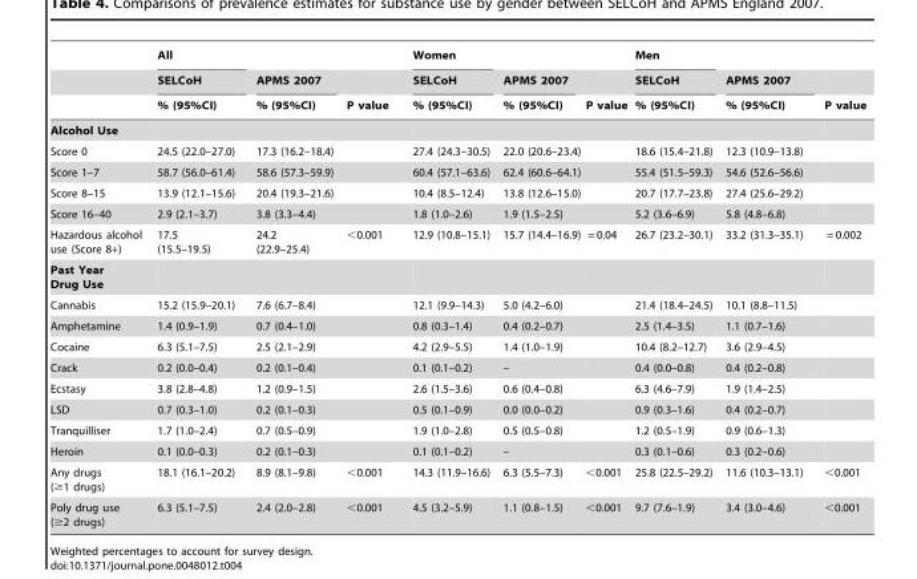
<table><thead><tr><td rowspan="3"></td><td rowspan="3">All SELCoH % (95%CI)</td><td rowspan="3">APMS 2007 % (95%CI)</td><td rowspan="3">P value</td><td rowspan="3">Women SELCoH % (95%CI)</td><td rowspan="3">APMS 2007 % (95%CI)</td><td rowspan="3">P value</td><td rowspan="3">Men SELCoH % (95%CI)</td><td rowspan="3">APMS 2007 % (95%CI)</td><td rowspan="3">P value</td></tr><tr></tr><tr></tr></thead><tbody><tr><td colspan="10">Alcohol Use</td></tr><tr><td>Score 0</td><td>24.5 (22.0–27.0)</td><td>17.3 (16.2–18.4)</td><td></td><td>27.4 (24.3–30.5)</td><td>22.0 (20.6–23.4)</td><td></td><td>18.6 (15.4–21.8)</td><td>12.3 (10.9–13.8)</td><td></td></tr><tr><td>Score 1–7</td><td>58.7 (56.0–61.4)</td><td>58.6 (57.3–59.9)</td><td></td><td>60.4 (57.1–63.6)</td><td>62.4 (60.6–64.1)</td><td></td><td>55.4 (51.5–59.3)</td><td>54.6 (52.6–56.6)</td><td></td></tr><tr><td>Score 8–15</td><td>13.9 (12.1–15.6)</td><td>20.4 (19.3–21.6)</td><td></td><td>10.4 (8.5–12.4)</td><td>13.8 (12.6–15.0)</td><td></td><td>20.7 (17.7–23.8)</td><td>27.4 (25.6–29.2)</td><td></td></tr><tr><td>Score 16–40</td><td>2.9 (2.1–3.7)</td><td>3.8 (3.3–4.4)</td><td></td><td>1.8 (1.0–2.6)</td><td>1.9 (1.5–2.5)</td><td></td><td>5.2 (3.6–6.9)</td><td>5.8 (4.8–6.8)</td><td></td></tr><tr><td>Hazardous alcohol use (Score 8+)</td><td>17.5 (15.5–19.5)</td><td>24.2 (22.9–25.4)</td><td>&lt;0.001</td><td>12.9 (10.8–15.1)</td><td>15.7 (14.4–16.9)</td><td>= 0.04</td><td>26.7 (23.2–30.1)</td><td>33.2 (31.3–35.1)</td><td>= 0.002</td></tr><tr><td colspan="10">Past Year Drug Use</td></tr><tr><td>Cannabis</td><td>15.2 (15.9–20.1)</td><td>7.6 (6.7–8.4)</td><td></td><td>12.1 (9.9–14.3)</td><td>5.0 (4.2–6.0)</td><td></td><td>21.4 (18.4–24.5)</td><td>10.1 (8.8–11.5)</td><td></td></tr><tr><td>Amphetamine</td><td>1.4 (0.9–1.9)</td><td>0.7 (0.4–1.0)</td><td></td><td>0.8 (0.3–1.4)</td><td>0.4 (0.2–0.7)</td><td></td><td>2.5 (1.4–3.5)</td><td>1.1 (0.7–1.6)</td><td></td></tr><tr><td>Cocaine</td><td>6.3 (5.1–7.5)</td><td>2.5 (2.1–2.9)</td><td></td><td>4.2 (2.9–5.5)</td><td>1.4 (1.0–1.9)</td><td></td><td>10.4 (8.2–12.7)</td><td>3.6 (2.9–4.5)</td><td></td></tr><tr><td>Crack</td><td>0.2 (0.0–0.4)</td><td>0.2 (0.1–0.4)</td><td></td><td>0.1 (0.1–0.2)</td><td>–</td><td></td><td>0.4 (0.0–0.8)</td><td>0.4 (0.2–0.8)</td><td></td></tr><tr><td>Ecstasy</td><td>3.8 (2.8–4.8)</td><td>1.2 (0.9–1.5)</td><td></td><td>2.6 (1.5–3.6)</td><td>0.6 (0.4–0.8)</td><td></td><td>6.3 (4.6–7.9)</td><td>1.9 (1.4–2.5)</td><td></td></tr><tr><td>LSD</td><td>0.7 (0.3–1.0)</td><td>0.2 (0.1–0.3)</td><td></td><td>0.5 (0.1–0.9)</td><td>0.0 (0.0–0.2)</td><td></td><td>0.9 (0.3–1.6)</td><td>0.4 (0.2–0.7)</td><td></td></tr><tr><td>Tranquilliser</td><td>1.7 (1.0–2.4)</td><td>0.7 (0.5–0.9)</td><td></td><td>1.9 (1.0–2.8)</td><td>0.5 (0.5–0.8)</td><td></td><td>1.2 (0.5–1.9)</td><td>0.9 (0.6–1.3)</td><td></td></tr><tr><td>Heroin</td><td>0.1 (0.0–0.3)</td><td>0.2 (0.1–0.3)</td><td></td><td>0.1 (0.1–0.2)</td><td>–</td><td></td><td>0.3 (0.1–0.6)</td><td>0.3 (0.2–0.6)</td><td></td></tr><tr><td>Any drugs (≥1 drugs)</td><td>18.1 (16.1–20.2)</td><td>8.9 (8.1–9.8)</td><td>&lt;0.001</td><td>14.3 (11.9–16.6)</td><td>6.3 (5.5–7.3)</td><td>&lt;0.001</td><td>25.8 (22.5–29.2)</td><td>11.6 (10.3–13.1)</td><td>&lt;0.001</td></tr><tr><td>Poly drug use (≥2 drugs)</td><td>6.3 (5.1–7.5)</td><td>2.4 (2.0–2.8)</td><td>&lt;0.001</td><td>4.5 (3.2–5.9)</td><td>1.1 (0.8–1.5)</td><td>&lt;0.001</td><td>9.7 (7.6–1.9)</td><td>3.4 (3.0–4.6)</td><td>&lt;0.001</td></tr></tbody></table>